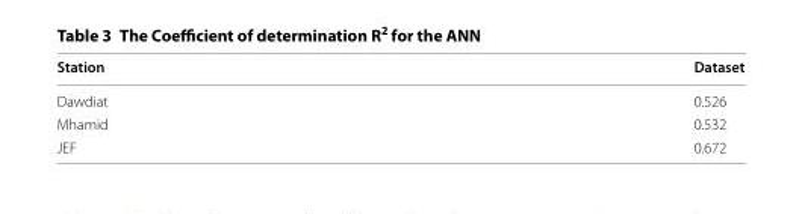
<table><thead><tr><td>Station</td><td>Dataset</td></tr></thead><tbody><tr><td>Dawdiat</td><td>0.526</td></tr><tr><td>Mhamid</td><td>0.532</td></tr><tr><td>JEF</td><td>0.672</td></tr></tbody></table>